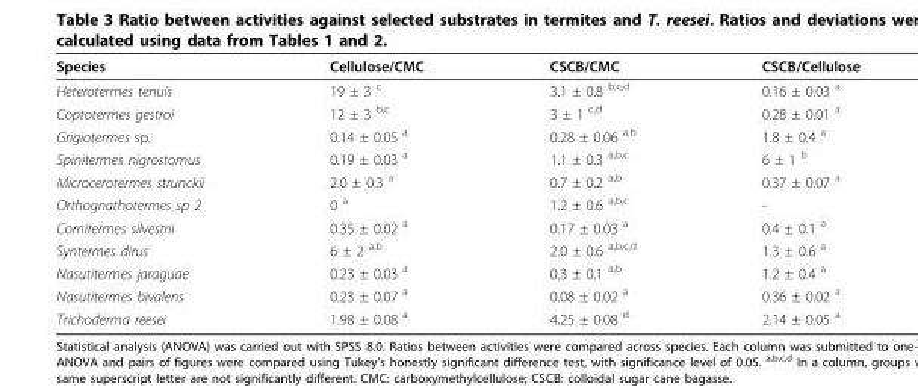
<table><thead><tr><td>Species</td><td>Cellulose/CMC</td><td>CSCB/CMC</td><td>CSCB/Cellulose</td></tr></thead><tbody><tr><td>Heterotermes tenuis</td><td>19 ± 3 <sup>c</sup></td><td>3.1 ± 0.8 <sup>b,c,d</sup></td><td>0.16 ± 0.03 <sup>a</sup></td></tr><tr><td>Coptotermes gestroi</td><td>12 ± 3 <sup>b,c</sup></td><td>3 ± 1 <sup>c,d</sup></td><td>0.28 ± 0.01 <sup>a</sup></td></tr><tr><td>Grigiotermes sp.</td><td>0.14 ± 0.05 <sup>a</sup></td><td>0.28 ± 0.06 <sup>a,b</sup></td><td>1.8 ± 0.4 <sup>a</sup></td></tr><tr><td>Spinitermes nigrostomus</td><td>0.19 ± 0.03 <sup>a</sup></td><td>1.1 ± 0.3 <sup>a,b,c</sup></td><td>6 ± 1 <sup>b</sup></td></tr><tr><td>Microcerotermes strunckii</td><td>2.0 ± 0.3 <sup>a</sup></td><td>0.7 ± 0.2 <sup>a,b</sup></td><td>0.37 ± 0.07 <sup>a</sup></td></tr><tr><td>Orthognathotermes sp 2</td><td>0 <sup>a</sup></td><td>1.2 ± 0.6 <sup>a,b,c</sup></td><td>-</td></tr><tr><td>Cornitermes silvestrii</td><td>0.35 ± 0.02 <sup>a</sup></td><td>0.17 ± 0.03 <sup>a</sup></td><td>0.4 ± 0.1 <sup>a</sup></td></tr><tr><td>Syntermes dirus</td><td>6 ± 2 <sup>a,b</sup></td><td>2.0 ± 0.6 <sup>a,b,c,d</sup></td><td>1.3 ± 0.6 <sup>a</sup></td></tr><tr><td>Nasutitermes jaraguae</td><td>0.23 ± 0.03 <sup>a</sup></td><td>0.3 ± 0.1 <sup>a,b</sup></td><td>1.2 ± 0.4 <sup>a</sup></td></tr><tr><td>Nasutitermes bivalens</td><td>0.23 ± 0.07 <sup>a</sup></td><td>0.08 ± 0.02 <sup>a</sup></td><td>0.36 ± 0.02 <sup>a</sup></td></tr><tr><td>Trichoderma reesei</td><td>1.98 ± 0.08 <sup>a</sup></td><td>4.25 ± 0.08 <sup>d</sup></td><td>2.14 ± 0.05 <sup>a</sup></td></tr></tbody></table>